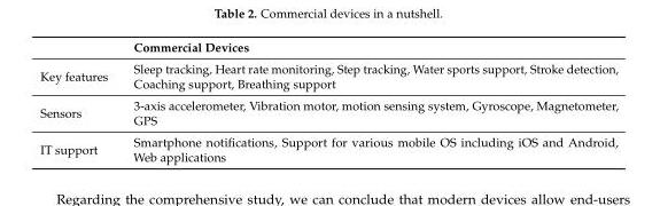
<table><thead><tr><td></td><td>Commercial Devices</td></tr></thead><tbody><tr><td>Key features</td><td>Sleep tracking, Heart rate monitoring, Step tracking, Water sports support, Stroke detection, Coaching support, Breathing support</td></tr><tr><td>Sensors</td><td>3-axis accelerometer, Vibration motor, motion sensing system, Gyroscope, Magnetometer, GPS</td></tr><tr><td>IT support</td><td>Smartphone notifications, Support for various mobile OS including iOS and Android, Web applications</td></tr></tbody></table>